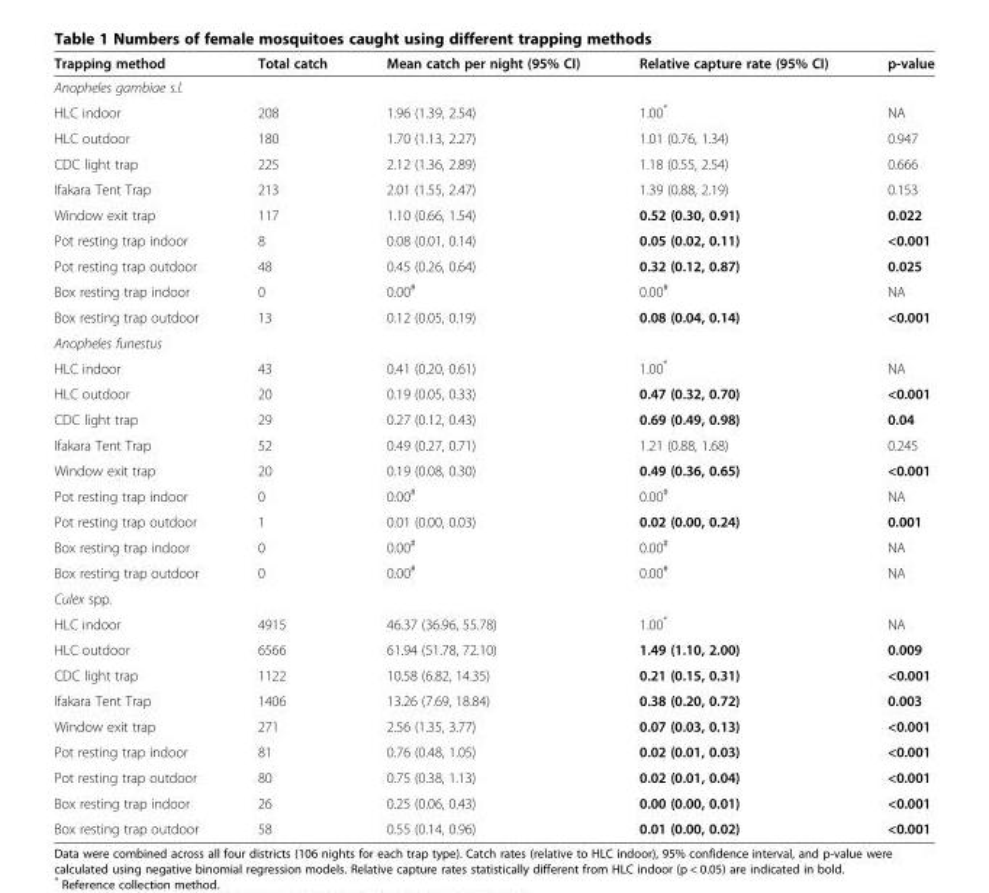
<table><thead><tr><td>Trapping method</td><td>Total catch</td><td>Mean catch per night (95% CI)</td><td>Relative capture rate (95% CI)</td><td>p-value</td></tr></thead><tbody><tr><td colspan="5">Anopheles gambiae s.l.</td></tr><tr><td>HLC indoor</td><td>208</td><td>1.96 (1.39, 2.54)</td><td>1.00*</td><td>NA</td></tr><tr><td>HLC outdoor</td><td>180</td><td>1.70 (1.13, 2.27)</td><td>1.01 (0.76, 1.34)</td><td>0.947</td></tr><tr><td>CDC light trap</td><td>225</td><td>2.12 (1.36, 2.89)</td><td>1.18 (0.55, 2.54)</td><td>0.666</td></tr><tr><td>Ifakara Tent Trap</td><td>213</td><td>2.01 (1.55, 2.47)</td><td>1.39 (0.88, 2.19)</td><td>0.153</td></tr><tr><td>Window exit trap</td><td>117</td><td>1.10 (0.66, 1.54)</td><td>0.52 (0.30, 0.91)</td><td>0.022</td></tr><tr><td>Pot resting trap indoor</td><td>8</td><td>0.08 (0.01, 0.14)</td><td>0.05 (0.02, 0.11)</td><td>&lt;0.001</td></tr><tr><td>Pot resting trap outdoor</td><td>48</td><td>0.45 (0.26, 0.64)</td><td>0.32 (0.12, 0.87)</td><td>0.025</td></tr><tr><td>Box resting trap indoor</td><td>0</td><td>0.00<sup>#</sup></td><td>0.00<sup>#</sup></td><td>NA</td></tr><tr><td>Box resting trap outdoor</td><td>13</td><td>0.12 (0.05, 0.19)</td><td>0.08 (0.04, 0.14)</td><td>&lt;0.001</td></tr><tr><td colspan="5">Anopheles funestus</td></tr><tr><td>HLC indoor</td><td>43</td><td>0.41 (0.20, 0.61)</td><td>1.00*</td><td>NA</td></tr><tr><td>HLC outdoor</td><td>20</td><td>0.19 (0.05, 0.33)</td><td>0.47 (0.32, 0.70)</td><td>&lt;0.001</td></tr><tr><td>CDC light trap</td><td>29</td><td>0.27 (0.12, 0.43)</td><td>0.69 (0.49, 0.98)</td><td>0.04</td></tr><tr><td>Ifakara Tent Trap</td><td>52</td><td>0.49 (0.27, 0.71)</td><td>1.21 (0.88, 1.68)</td><td>0.245</td></tr><tr><td>Window exit trap</td><td>20</td><td>0.19 (0.08, 0.30)</td><td>0.49 (0.36, 0.65)</td><td>&lt;0.001</td></tr><tr><td>Pot resting trap indoor</td><td>0</td><td>0.00<sup>#</sup></td><td>0.00<sup>#</sup></td><td>NA</td></tr><tr><td>Pot resting trap outdoor</td><td>1</td><td>0.01 (0.00, 0.03)</td><td>0.02 (0.00, 0.24)</td><td>0.001</td></tr><tr><td>Box resting trap indoor</td><td>0</td><td>0.00<sup>#</sup></td><td>0.00<sup>#</sup></td><td>NA</td></tr><tr><td>Box resting trap outdoor</td><td>0</td><td>0.00<sup>#</sup></td><td>0.00<sup>#</sup></td><td>NA</td></tr><tr><td colspan="5">Culex spp.</td></tr><tr><td>HLC indoor</td><td>4915</td><td>46.37 (36.96, 55.78)</td><td>1.00*</td><td>NA</td></tr><tr><td>HLC outdoor</td><td>6566</td><td>61.94 (51.78, 72.10)</td><td>1.49 (1.10, 2.00)</td><td>0.009</td></tr><tr><td>CDC light trap</td><td>1122</td><td>10.58 (6.82, 14.35)</td><td>0.21 (0.15, 0.31)</td><td>&lt;0.001</td></tr><tr><td>Ifakara Tent Trap</td><td>1406</td><td>13.26 (7.69, 18.84)</td><td>0.38 (0.20, 0.72)</td><td>0.003</td></tr><tr><td>Window exit trap</td><td>271</td><td>2.56 (1.35, 3.77)</td><td>0.07 (0.03, 0.13)</td><td>&lt;0.001</td></tr><tr><td>Pot resting trap indoor</td><td>81</td><td>0.76 (0.48, 1.05)</td><td>0.02 (0.01, 0.03)</td><td>&lt;0.001</td></tr><tr><td>Pot resting trap outdoor</td><td>80</td><td>0.75 (0.38, 1.13)</td><td>0.02 (0.01, 0.04)</td><td>&lt;0.001</td></tr><tr><td>Box resting trap indoor</td><td>26</td><td>0.25 (0.06, 0.43)</td><td>0.00 (0.00, 0.01)</td><td>&lt;0.001</td></tr><tr><td>Box resting trap outdoor</td><td>58</td><td>0.55 (0.14, 0.96)</td><td>0.01 (0.00, 0.02)</td><td>&lt;0.001</td></tr></tbody></table>